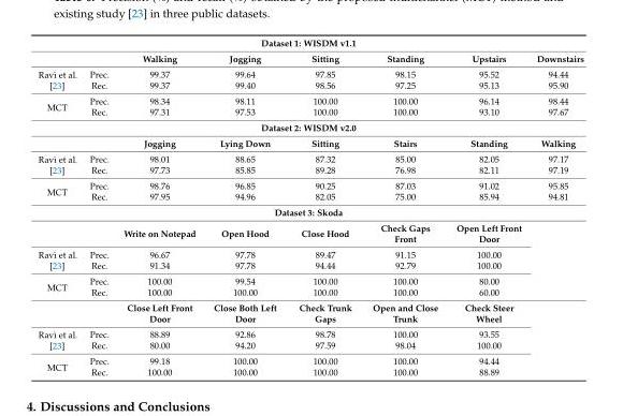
<table><tbody><tr><td colspan="8">Dataset 1: WISDM v1.1</td></tr><tr><td colspan="2"></td><td>Walking</td><td>Jogging</td><td>Sitting</td><td>Standing</td><td>Upstairs</td><td>Downstairs</td></tr><tr><td rowspan="2">Ravì et al. [23]</td><td>Prec.</td><td>99.37</td><td>99.64</td><td>97.85</td><td>98.15</td><td>95.52</td><td>94.44</td></tr><tr><td>Rec.</td><td>99.37</td><td>99.40</td><td>98.56</td><td>97.25</td><td>95.13</td><td>95.90</td></tr><tr><td rowspan="2">MCT</td><td>Prec.</td><td>98.34</td><td>98.11</td><td>100.00</td><td>100.00</td><td>96.14</td><td>98.44</td></tr><tr><td>Rec.</td><td>97.31</td><td>97.53</td><td>100.00</td><td>100.00</td><td>93.10</td><td>97.67</td></tr><tr><td colspan="8">Dataset 2: WISDM v2.0</td></tr><tr><td colspan="2"></td><td>Jogging</td><td>Lying Down</td><td>Sitting</td><td>Stairs</td><td>Standing</td><td>Walking</td></tr><tr><td rowspan="2">Ravì et al. [23]</td><td>Prec.</td><td>98.01</td><td>88.65</td><td>87.32</td><td>85.00</td><td>82.05</td><td>97.17</td></tr><tr><td>Rec.</td><td>97.73</td><td>85.85</td><td>89.28</td><td>76.98</td><td>82.11</td><td>97.19</td></tr><tr><td rowspan="2">MCT</td><td>Prec.</td><td>98.76</td><td>96.85</td><td>90.25</td><td>87.03</td><td>91.02</td><td>95.85</td></tr><tr><td>Rec.</td><td>97.95</td><td>94.96</td><td>82.05</td><td>75.00</td><td>85.94</td><td>94.81</td></tr><tr><td colspan="8">Dataset 3: Skoda</td></tr><tr><td colspan="2"></td><td>Write on Notepad</td><td>Open Hood</td><td>Close Hood</td><td>Check Gaps Front</td><td>Open Left Front Door</td><td rowspan="5"></td></tr><tr><td rowspan="2">Ravì et al. [23]</td><td>Prec.</td><td>96.67</td><td>97.78</td><td>89.47</td><td>91.15</td><td>100.00</td></tr><tr><td>Rec.</td><td>91.34</td><td>97.78</td><td>94.44</td><td>92.79</td><td>100.00</td></tr><tr><td rowspan="2">MCT</td><td>Prec.</td><td>100.00</td><td>99.54</td><td>100.00</td><td>100.00</td><td>80.00</td></tr><tr><td>Rec.</td><td>100.00</td><td>100.00</td><td>100.00</td><td>100.00</td><td>60.00</td></tr><tr><td colspan="2"></td><td>Close Left Front Door</td><td>Close Both Left Door</td><td>Check Trunk Gaps</td><td>Open and Close Trunk</td><td>Check Steer Wheel</td><td rowspan="5"></td></tr><tr><td rowspan="2">Ravì et al. [23]</td><td>Prec.</td><td>88.89</td><td>92.86</td><td>98.78</td><td>100.00</td><td>93.55</td></tr><tr><td>Rec.</td><td>80.00</td><td>94.20</td><td>97.59</td><td>98.04</td><td>100.00</td></tr><tr><td rowspan="2">MCT</td><td>Prec.</td><td>99.18</td><td>100.00</td><td>100.00</td><td>100.00</td><td>94.44</td></tr><tr><td>Rec.</td><td>100.00</td><td>100.00</td><td>100.00</td><td>100.00</td><td>88.89</td></tr></tbody></table>